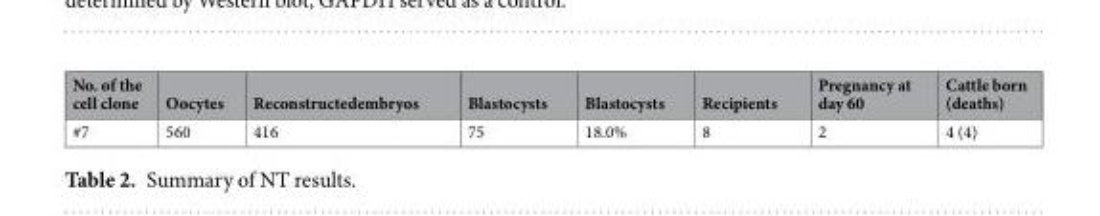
<table><thead><tr><td>No. of the cell clone</td><td>Oocytes</td><td>Reconstructedembryos</td><td>Blastocysts</td><td>Blastocysts</td><td>Recipients</td><td>Pregnancy at day 60</td><td>Cattle born (deaths)</td></tr></thead><tbody><tr><td>#7</td><td>560</td><td>416</td><td>75</td><td>18.0%</td><td>8</td><td>2</td><td>4 (4)</td></tr></tbody></table>